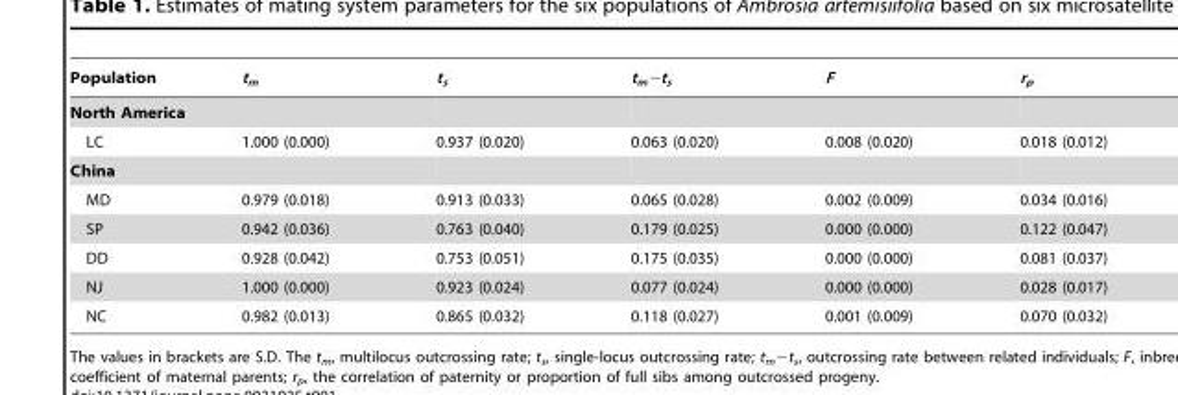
<table><thead><tr><td>Population</td><td>t<sub>m</sub></td><td>t<sub>s</sub></td><td>t<sub>m</sub>−t<sub>s</sub></td><td>F</td><td>r<sub>p</sub></td></tr></thead><tbody><tr><td colspan="6">North America</td></tr><tr><td>LC</td><td>1.000 (0.000)</td><td>0.937 (0.020)</td><td>0.063 (0.020)</td><td>0.008 (0.020)</td><td>0.018 (0.012)</td></tr><tr><td colspan="6">China</td></tr><tr><td>MD</td><td>0.979 (0.018)</td><td>0.913 (0.033)</td><td>0.065 (0.028)</td><td>0.002 (0.009)</td><td>0.034 (0.016)</td></tr><tr><td>SP</td><td>0.942 (0.036)</td><td>0.763 (0.040)</td><td>0.179 (0.025)</td><td>0.000 (0.000)</td><td>0.122 (0.047)</td></tr><tr><td>DD</td><td>0.928 (0.042)</td><td>0.753 (0.051)</td><td>0.175 (0.035)</td><td>0.000 (0.000)</td><td>0.081 (0.037)</td></tr><tr><td>NJ</td><td>1.000 (0.000)</td><td>0.923 (0.024)</td><td>0.077 (0.024)</td><td>0.000 (0.000)</td><td>0.028 (0.017)</td></tr><tr><td>NC</td><td>0.982 (0.013)</td><td>0.865 (0.032)</td><td>0.118 (0.027)</td><td>0.001 (0.009)</td><td>0.070 (0.032)</td></tr></tbody></table>